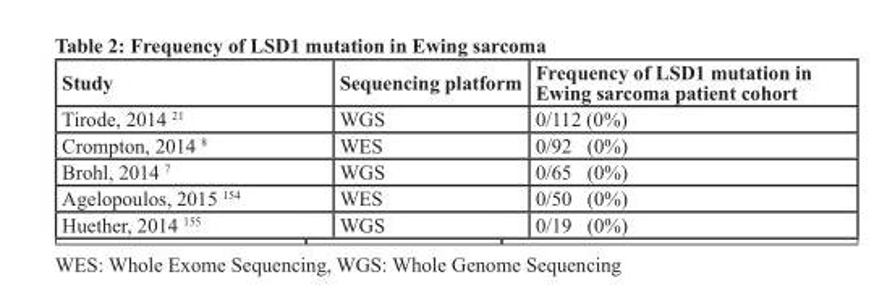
<table><thead><tr><td>Study</td><td>Sequencing platform</td><td>Frequency of LSD1 mutation in Ewing sarcoma patient cohort</td></tr></thead><tbody><tr><td>Tirode, 2014 <sup>21</sup></td><td>WGS</td><td>0/112 (0%)</td></tr><tr><td>Crompton, 2014 <sup>8</sup></td><td>WES</td><td>0/92 (0%)</td></tr><tr><td>Brohl, 2014 <sup>7</sup></td><td>WGS</td><td>0/65 (0%)</td></tr><tr><td>Agelopoulos, 2015 <sup>154</sup></td><td>WES</td><td>0/50 (0%)</td></tr><tr><td>Huether, 2014 <sup>155</sup></td><td>WGS</td><td>0/19 (0%)</td></tr></tbody></table>